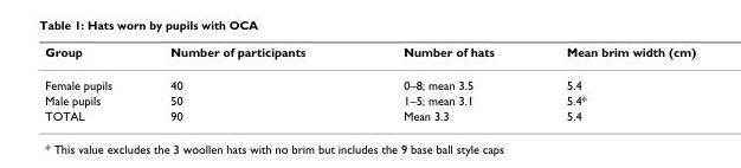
<table><thead><tr><td>Group</td><td>Number of participants</td><td>Number of hats</td><td>Mean brim width (cm)</td></tr></thead><tbody><tr><td>Female pupils</td><td>40</td><td>0–8; mean 3.5</td><td>5.4</td></tr><tr><td>Male pupils</td><td>50</td><td>1–5; mean 3.1</td><td>5.4*</td></tr><tr><td>TOTAL</td><td>90</td><td>Mean 3.3</td><td>5.4</td></tr></tbody></table>